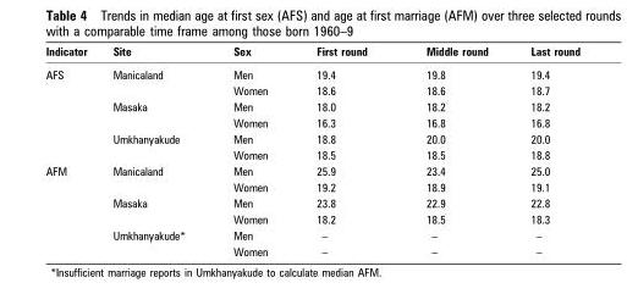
<table><thead><tr><td>Indicator</td><td>Site</td><td>Sex</td><td>First round</td><td>Middle round</td><td>Last round</td></tr></thead><tbody><tr><td rowspan="6">AFS</td><td rowspan="2">Manicaland</td><td>Men</td><td>19.4</td><td>19.8</td><td>19.4</td></tr><tr><td>Women</td><td>18.6</td><td>18.6</td><td>18.7</td></tr><tr><td rowspan="2">Masaka</td><td>Men</td><td>18.0</td><td>18.2</td><td>18.2</td></tr><tr><td>Women</td><td>16.3</td><td>16.8</td><td>16.8</td></tr><tr><td rowspan="2">Umkhanyakude</td><td>Men</td><td>18.8</td><td>20.0</td><td>20.0</td></tr><tr><td>Women</td><td>18.5</td><td>18.5</td><td>18.8</td></tr><tr><td rowspan="6">AFM</td><td rowspan="2">Manicaland</td><td>Men</td><td>25.9</td><td>23.4</td><td>25.0</td></tr><tr><td>Women</td><td>19.2</td><td>18.9</td><td>19.1</td></tr><tr><td rowspan="2">Masaka</td><td>Men</td><td>23.8</td><td>22.9</td><td>22.8</td></tr><tr><td>Women</td><td>18.2</td><td>18.5</td><td>18.3</td></tr><tr><td rowspan="2">Umkhanyakude*</td><td>Men</td><td>–</td><td>–</td><td>–</td></tr><tr><td>Women</td><td>–</td><td>–</td><td>–</td></tr></tbody></table>